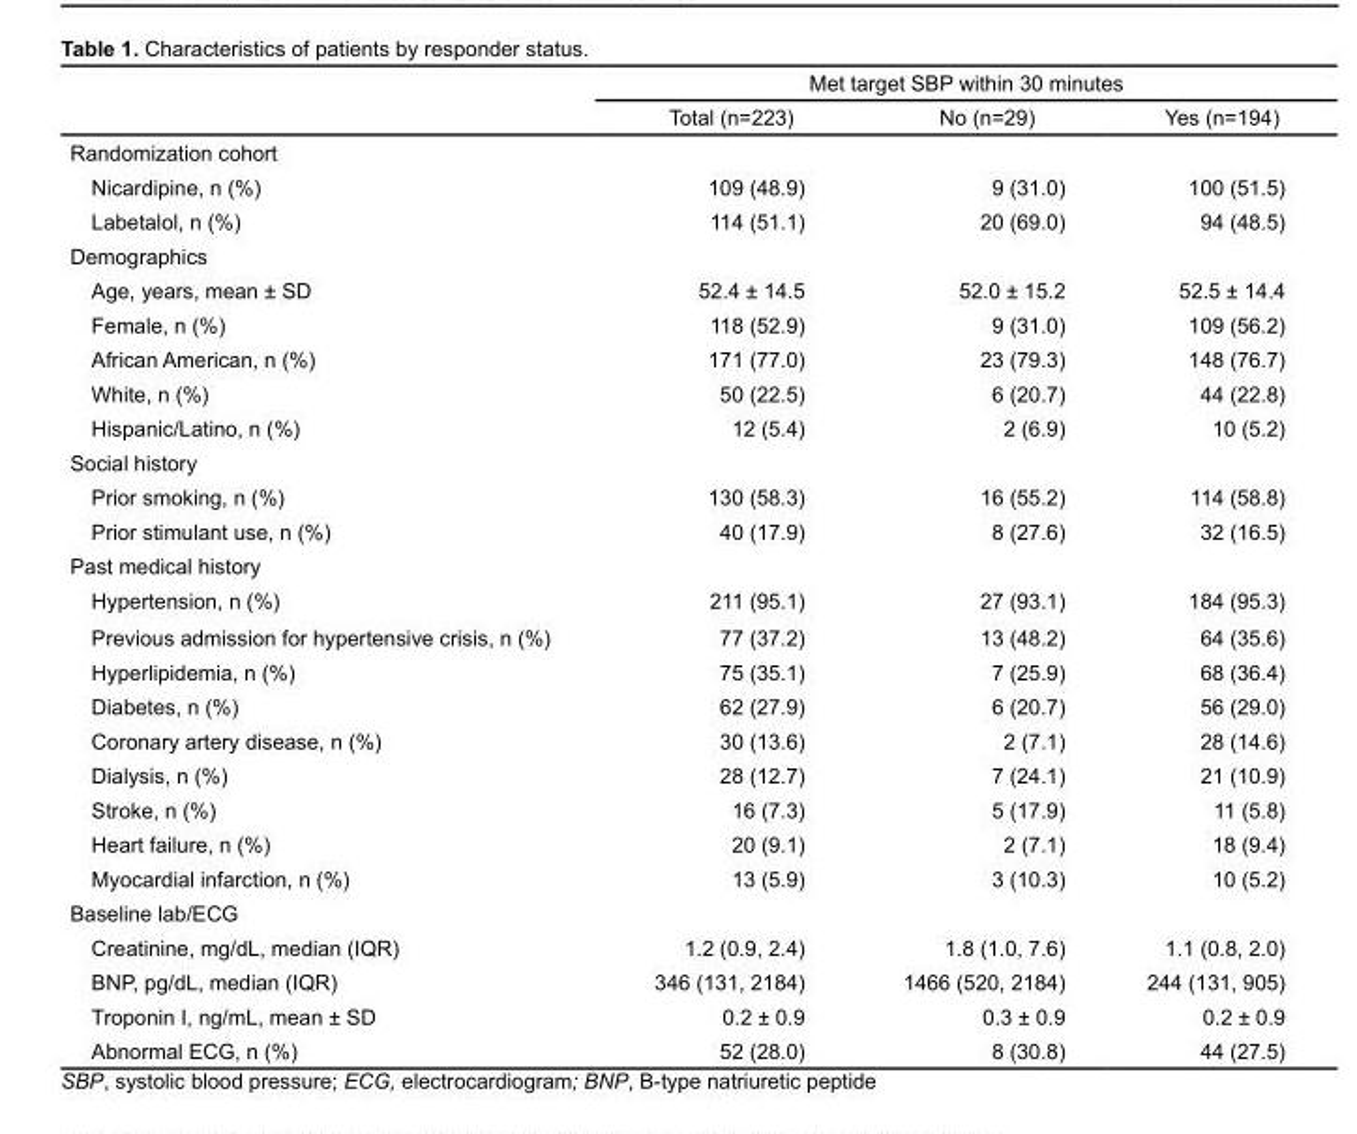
<table><thead><tr><td rowspan="2"></td><td colspan="3">Met target SBP within 30 minutes</td></tr><tr><td>Total (n=223)</td><td>No (n=29)</td><td>Yes (n=194)</td></tr></thead><tbody><tr><td colspan="4">Randomization cohort</td></tr><tr><td>Nicardipine, n (%)</td><td>109 (48.9)</td><td>9 (31.0)</td><td>100 (51.5)</td></tr><tr><td>Labetalol, n (%)</td><td>114 (51.1)</td><td>20 (69.0)</td><td>94 (48.5)</td></tr><tr><td colspan="4">Demographics</td></tr><tr><td>Age, years, mean ± SD</td><td>52.4 ± 14.5</td><td>52.0 ± 15.2</td><td>52.5 ± 14.4</td></tr><tr><td>Female, n (%)</td><td>118 (52.9)</td><td>9 (31.0)</td><td>109 (56.2)</td></tr><tr><td>African American, n (%)</td><td>171 (77.0)</td><td>23 (79.3)</td><td>148 (76.7)</td></tr><tr><td>White, n (%)</td><td>50 (22.5)</td><td>6 (20.7)</td><td>44 (22.8)</td></tr><tr><td>Hispanic/Latino, n (%)</td><td>12 (5.4)</td><td>2 (6.9)</td><td>10 (5.2)</td></tr><tr><td colspan="4">Social history</td></tr><tr><td>Prior smoking, n (%)</td><td>130 (58.3)</td><td>16 (55.2)</td><td>114 (58.8)</td></tr><tr><td>Prior stimulant use, n (%)</td><td>40 (17.9)</td><td>8 (27.6)</td><td>32 (16.5)</td></tr><tr><td colspan="4">Past medical history</td></tr><tr><td>Hypertension, n (%)</td><td>211 (95.1)</td><td>27 (93.1)</td><td>184 (95.3)</td></tr><tr><td>Previous admission for hypertensive crisis, n (%)</td><td>77 (37.2)</td><td>13 (48.2)</td><td>64 (35.6)</td></tr><tr><td>Hyperlipidemia, n (%)</td><td>75 (35.1)</td><td>7 (25.9)</td><td>68 (36.4)</td></tr><tr><td>Diabetes, n (%)</td><td>62 (27.9)</td><td>6 (20.7)</td><td>56 (29.0)</td></tr><tr><td>Coronary artery disease, n (%)</td><td>30 (13.6)</td><td>2 (7.1)</td><td>28 (14.6)</td></tr><tr><td>Dialysis, n (%)</td><td>28 (12.7)</td><td>7 (24.1)</td><td>21 (10.9)</td></tr><tr><td>Stroke, n (%)</td><td>16 (7.3)</td><td>5 (17.9)</td><td>11 (5.8)</td></tr><tr><td>Heart failure, n (%)</td><td>20 (9.1)</td><td>2 (7.1)</td><td>18 (9.4)</td></tr><tr><td>Myocardial infarction, n (%)</td><td>13 (5.9)</td><td>3 (10.3)</td><td>10 (5.2)</td></tr><tr><td colspan="4">Baseline lab/ECG</td></tr><tr><td>Creatinine, mg/dL, median (IQR)</td><td>1.2 (0.9, 2.4)</td><td>1.8 (1.0, 7.6)</td><td>1.1 (0.8, 2.0)</td></tr><tr><td>BNP, pg/dL, median (IQR)</td><td>346 (131, 2184)</td><td>1466 (520, 2184)</td><td>244 (131, 905)</td></tr><tr><td>Troponin I, ng/mL, mean ± SD</td><td>0.2 ± 0.9</td><td>0.3 ± 0.9</td><td>0.2 ± 0.9</td></tr><tr><td>Abnormal ECG, n (%)</td><td>52 (28.0)</td><td>8 (30.8)</td><td>44 (27.5)</td></tr></tbody></table>